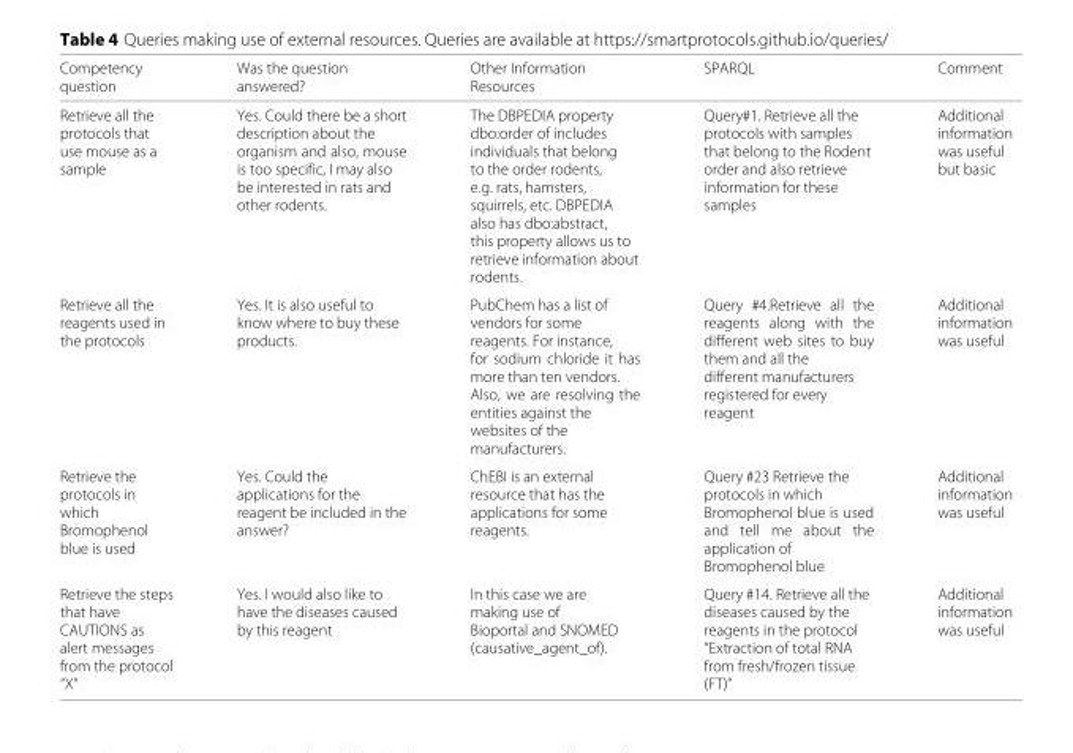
<table><thead><tr><td>Competency question</td><td>Was the question answered?</td><td>Other Information Resources</td><td>SPARQL</td><td>Comment</td></tr></thead><tbody><tr><td>Retrieve all the protocols that use mouse as a sample</td><td>Yes. Could there be a short description about the organism and also, mouse is too specific, I may also be interested in rats and other rodents.</td><td>The DBPEDIA property dbo:order of includes individuals that belong to the order rodents, e.g. rats, hamsters, squirrels, etc. DBPEDIA also has dbo:abstract, this property allows us to retrieve information about rodents.</td><td>Query#1. Retrieve all the protocols with samples that belong to the Rodent order and also retrieve information for these samples</td><td>Additional information was useful but basic</td></tr><tr><td>Retrieve all the reagents used in the protocols</td><td>Yes. It is also useful to know where to buy these products.</td><td>PubChem has a list of vendors for some reagents. For instance, for sodium chloride it has more than ten vendors. Also, we are resolving the entities against the websites of the manufacturers.</td><td>Query #4.Retrieve all the reagents along with the different web sites to buy them and all the different manufacturers registered for every reagent</td><td>Additional information was useful</td></tr><tr><td>Retrieve the protocols in which Bromophenol blue is used</td><td>Yes. Could the applications for the reagent be included in the answer?</td><td>ChEBI is an external resource that has the applications for some reagents.</td><td>Query #23 Retrieve the protocols in which Bromophenol blue is used and tell me about the application of Bromophenol blue</td><td>Additional information was useful</td></tr><tr><td>Retrieve the steps that have CAUTIONS as alert messages from the protocol “X”</td><td>Yes. I would also like to have the diseases caused by this reagent</td><td>In this case we are making use of Bioportal and SNOMED (causative_agent_of).</td><td>Query #14. Retrieve all the diseases caused by the reagents in the protocol “Extraction of total RNA from fresh/frozen tissue (FT)”</td><td>Additional information was useful</td></tr></tbody></table>